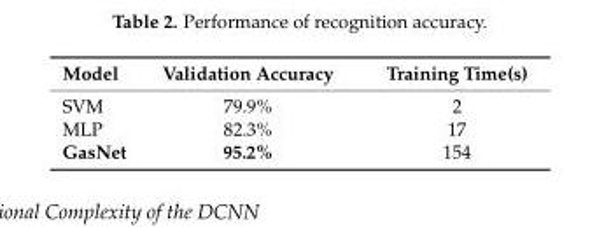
<table><thead><tr><td>Model</td><td>Validation Accuracy</td><td>Training Time(s)</td></tr></thead><tbody><tr><td>SVM</td><td>79.9%</td><td>2</td></tr><tr><td>MLP</td><td>82.3%</td><td>17</td></tr><tr><td>GasNet</td><td>95.2%</td><td>154</td></tr></tbody></table>